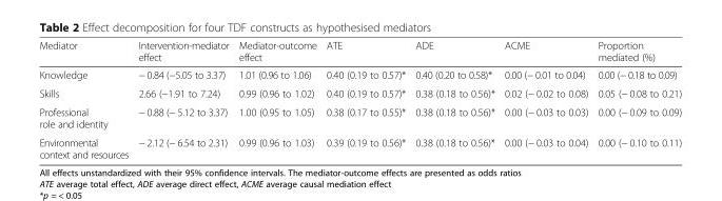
<table><thead><tr><td>Mediator</td><td>Intervention-mediator effect</td><td>Mediator-outcome effect</td><td>ATE</td><td>ADE</td><td>ACME</td><td>Proportion mediated (%)</td></tr></thead><tbody><tr><td>Knowledge</td><td>− 0.84 (−5.05 to 3.37)</td><td>1.01 (0.96 to 1.06)</td><td>0.40 (0.19 to 0.57)*</td><td>0.40 (0.20 to 0.58)*</td><td>0.00 (− 0.01 to 0.04)</td><td>0.00 (− 0.18 to 0.09)</td></tr><tr><td>Skills</td><td>2.66 (−1.91 to 7.24)</td><td>0.99 (0.96 to 1.02)</td><td>0.40 (0.19 to 0.57)*</td><td>0.38 (0.18 to 0.56)*</td><td>0.02 (− 0.02 to 0.08)</td><td>0.05 (− 0.08 to 0.21)</td></tr><tr><td>Professional role and identity</td><td>− 0.88 (− 5.12 to 3.37)</td><td>1.00 (0.95 to 1.05)</td><td>0.38 (0.17 to 0.55)*</td><td>0.38 (0.18 to 0.56)*</td><td>0.00 (− 0.03 to 0.03)</td><td>0.00 (− 0.09 to 0.09)</td></tr><tr><td>Environmental context and resources</td><td>− 2.12 (− 6.54 to 2.31)</td><td>0.99 (0.96 to 1.03)</td><td>0.39 (0.19 to 0.56)*</td><td>0.38 (0.18 to 0.56)*</td><td>0.00 (− 0.03 to 0.04)</td><td>0.00 (− 0.10 to 0.11)</td></tr></tbody></table>